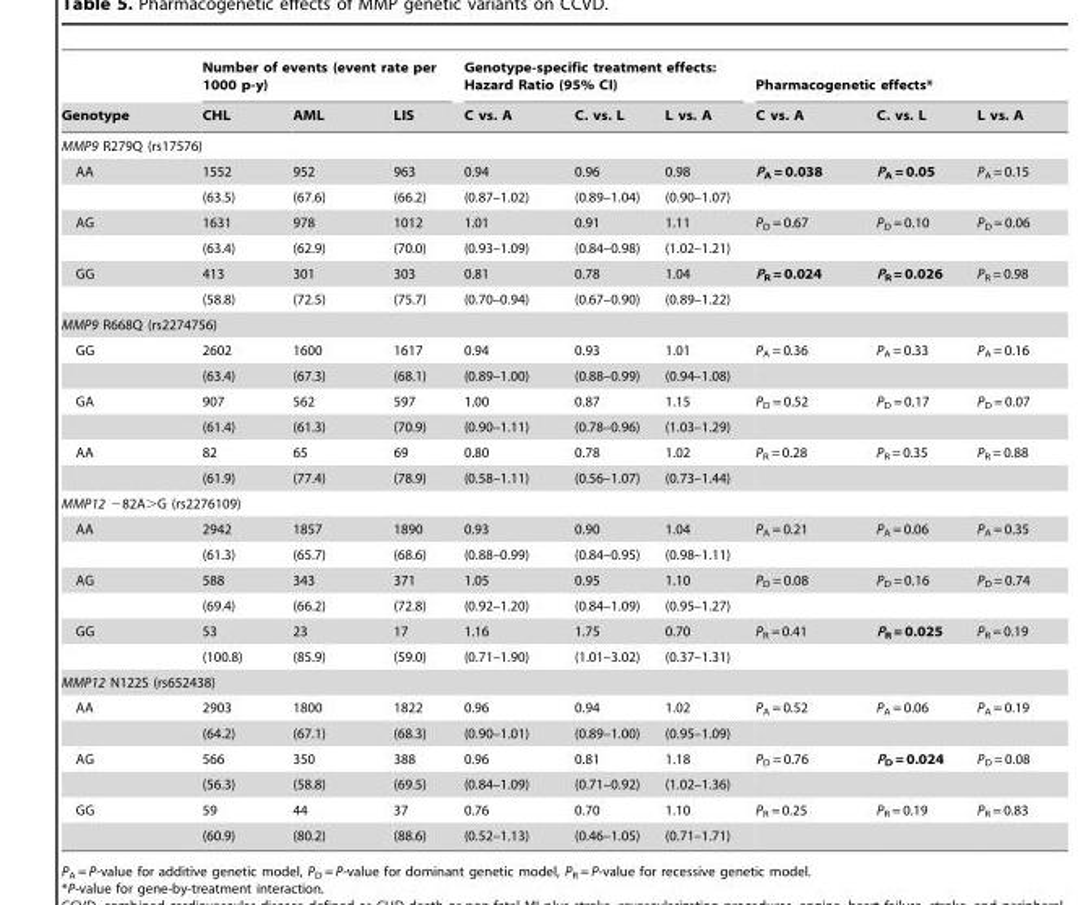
<table><thead><tr><td rowspan="2">Genotype</td><td colspan="3">Number of events (event rate per 1000 p-y)</td><td colspan="3">Genotype-specific treatment effects: Hazard Ratio (95% CI)</td><td colspan="3">Pharmacogenetic effects*</td></tr><tr><td>CHL</td><td>AML</td><td>LIS</td><td>C vs. A</td><td>C. vs. L</td><td>L vs. A</td><td>C vs. A</td><td>C. vs. L</td><td>L vs. A</td></tr></thead><tbody><tr><td colspan="10">MMP9 R279Q (rs17576)</td></tr><tr><td rowspan="2">AA</td><td>1552</td><td>952</td><td>963</td><td>0.94</td><td>0.96</td><td>0.98</td><td>P<sub>A</sub> = 0.038</td><td>P<sub>A</sub> = 0.05</td><td>P<sub>A</sub> = 0.15</td></tr><tr><td>(63.5)</td><td>(67.6)</td><td>(66.2)</td><td>(0.87–1.02)</td><td>(0.89–1.04)</td><td>(0.90–1.07)</td><td></td><td></td><td></td></tr><tr><td rowspan="2">AG</td><td>1631</td><td>978</td><td>1012</td><td>1.01</td><td>0.91</td><td>1.11</td><td>P<sub>D</sub> = 0.67</td><td>P<sub>D</sub> = 0.10</td><td>P<sub>D</sub> = 0.06</td></tr><tr><td>(63.4)</td><td>(62.9)</td><td>(70.0)</td><td>(0.93–1.09)</td><td>(0.84–0.98)</td><td>(1.02–1.21)</td><td></td><td></td><td></td></tr><tr><td rowspan="2">GG</td><td>413</td><td>301</td><td>303</td><td>0.81</td><td>0.78</td><td>1.04</td><td>P<sub>R</sub> = 0.024</td><td>P<sub>R</sub> = 0.026</td><td>P<sub>R</sub> = 0.98</td></tr><tr><td>(58.8)</td><td>(72.5)</td><td>(75.7)</td><td>(0.70–0.94)</td><td>(0.67–0.90)</td><td>(0.89–1.22)</td><td></td><td></td><td></td></tr><tr><td colspan="10">MMP9 R668Q (rs2274756)</td></tr><tr><td rowspan="2">GG</td><td>2602</td><td>1600</td><td>1617</td><td>0.94</td><td>0.93</td><td>1.01</td><td>P<sub>A</sub> = 0.36</td><td>P<sub>A</sub> = 0.33</td><td>P<sub>A</sub> = 0.16</td></tr><tr><td>(63.4)</td><td>(67.3)</td><td>(68.1)</td><td>(0.89–1.00)</td><td>(0.88–0.99)</td><td>(0.94–1.08)</td><td></td><td></td><td></td></tr><tr><td rowspan="2">GA</td><td>907</td><td>562</td><td>597</td><td>1.00</td><td>0.87</td><td>1.15</td><td>P<sub>D</sub> = 0.52</td><td>P<sub>D</sub> = 0.17</td><td>P<sub>D</sub> = 0.07</td></tr><tr><td>(61.4)</td><td>(61.3)</td><td>(70.9)</td><td>(0.90–1.11)</td><td>(0.78–0.96)</td><td>(1.03–1.29)</td><td></td><td></td><td></td></tr><tr><td rowspan="2">AA</td><td>82</td><td>65</td><td>69</td><td>0.80</td><td>0.78</td><td>1.02</td><td>P<sub>R</sub> = 0.28</td><td>P<sub>R</sub> = 0.35</td><td>P<sub>R</sub> = 0.88</td></tr><tr><td>(61.9)</td><td>(77.4)</td><td>(78.9)</td><td>(0.58–1.11)</td><td>(0.56–1.07)</td><td>(0.73–1.44)</td><td></td><td></td><td></td></tr><tr><td colspan="10">MMP12 −82A&gt;G (rs2276109)</td></tr><tr><td rowspan="2">AA</td><td>2942</td><td>1857</td><td>1890</td><td>0.93</td><td>0.90</td><td>1.04</td><td>P<sub>A</sub> = 0.21</td><td>P<sub>A</sub> = 0.06</td><td>P<sub>A</sub> = 0.35</td></tr><tr><td>(61.3)</td><td>(65.7)</td><td>(68.6)</td><td>(0.88–0.99)</td><td>(0.84–0.95)</td><td>(0.98–1.11)</td><td></td><td></td><td></td></tr><tr><td rowspan="2">AG</td><td>588</td><td>343</td><td>371</td><td>1.05</td><td>0.95</td><td>1.10</td><td>P<sub>D</sub> = 0.08</td><td>P<sub>D</sub> = 0.16</td><td>P<sub>D</sub> = 0.74</td></tr><tr><td>(69.4)</td><td>(66.2)</td><td>(72.8)</td><td>(0.92–1.20)</td><td>(0.84–1.09)</td><td>(0.95–1.27)</td><td></td><td></td><td></td></tr><tr><td rowspan="2">GG</td><td>53</td><td>23</td><td>17</td><td>1.16</td><td>1.75</td><td>0.70</td><td>P<sub>R</sub> = 0.41</td><td>P<sub>R</sub> = 0.025</td><td>P<sub>R</sub> = 0.19</td></tr><tr><td>(100.8)</td><td>(85.9)</td><td>(59.0)</td><td>(0.71–1.90)</td><td>(1.01–3.02)</td><td>(0.37–1.31)</td><td></td><td></td><td></td></tr><tr><td colspan="10">MMP12 N122S (rs652438)</td></tr><tr><td rowspan="2">AA</td><td>2903</td><td>1800</td><td>1822</td><td>0.96</td><td>0.94</td><td>1.02</td><td>P<sub>A</sub> = 0.52</td><td>P<sub>A</sub> = 0.06</td><td>P<sub>A</sub> = 0.19</td></tr><tr><td>(64.2)</td><td>(67.1)</td><td>(68.3)</td><td>(0.90–1.01)</td><td>(0.89–1.00)</td><td>(0.95–1.09)</td><td></td><td></td><td></td></tr><tr><td rowspan="2">AG</td><td>566</td><td>350</td><td>388</td><td>0.96</td><td>0.81</td><td>1.18</td><td>P<sub>D</sub> = 0.76</td><td>P<sub>D</sub> = 0.024</td><td>P<sub>D</sub> = 0.08</td></tr><tr><td>(56.3)</td><td>(58.8)</td><td>(69.5)</td><td>(0.84–1.09)</td><td>(0.71–0.92)</td><td>(1.02–1.36)</td><td></td><td></td><td></td></tr><tr><td rowspan="2">GG</td><td>59</td><td>44</td><td>37</td><td>0.76</td><td>0.70</td><td>1.10</td><td>P<sub>R</sub> = 0.25</td><td>P<sub>R</sub> = 0.19</td><td>P<sub>R</sub> = 0.83</td></tr><tr><td>(60.9)</td><td>(80.2)</td><td>(88.6)</td><td>(0.52–1.13)</td><td>(0.46–1.05)</td><td>(0.71–1.71)</td><td></td><td></td><td></td></tr></tbody></table>